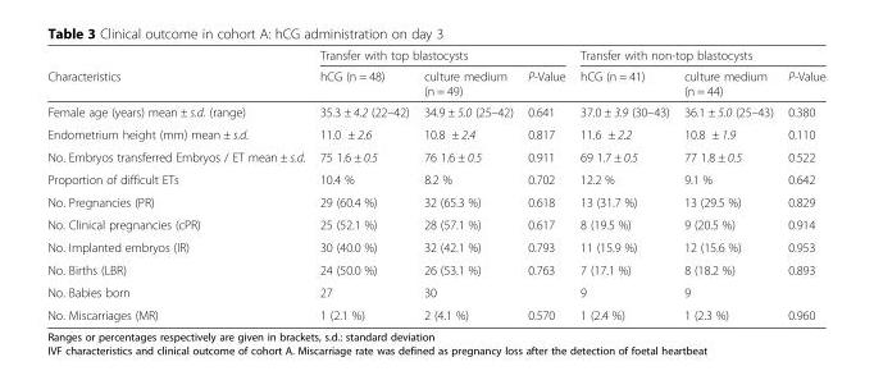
<table><thead><tr><td rowspan="2">Characteristics</td><td colspan="3">Transfer with top blastocysts</td><td colspan="3">Transfer with non-top blastocysts</td></tr><tr><td>hCG (n = 48)</td><td>culture medium (n = 49)</td><td>P-Value</td><td>hCG (n = 41)</td><td>culture medium (n = 44)</td><td>P-Value</td></tr></thead><tbody><tr><td>Female age (years) mean ± s.d. (range)</td><td>35.3 ± 4.2 (22–42)</td><td>34.9 ± 5.0 (25–42)</td><td>0.641</td><td>37.0 ± 3.9 (30–43)</td><td>36.1 ± 5.0 (25–43)</td><td>0.380</td></tr><tr><td>Endometrium height (mm) mean ± s.d.</td><td>11.0 ± 2.6</td><td>10.8 ± 2.4</td><td>0.817</td><td>11.6 ± 2.2</td><td>10.8 ± 1.9</td><td>0.110</td></tr><tr><td>No. Embryos transferred Embryos / ET mean ± s.d.</td><td>75 1.6 ± 0.5</td><td>76 1.6 ± 0.5</td><td>0.911</td><td>69 1.7 ± 0.5</td><td>77 1.8 ± 0.5</td><td>0.522</td></tr><tr><td>Proportion of difficult ETs</td><td>10.4 %</td><td>8.2 %</td><td>0.702</td><td>12.2 %</td><td>9.1 %</td><td>0.642</td></tr><tr><td>No. Pregnancies (PR)</td><td>29 (60.4 %)</td><td>32 (65.3 %)</td><td>0.618</td><td>13 (31.7 %)</td><td>13 (29.5 %)</td><td>0.829</td></tr><tr><td>No. Clinical pregnancies (cPR)</td><td>25 (52.1 %)</td><td>28 (57.1 %)</td><td>0.617</td><td>8 (19.5 %)</td><td>9 (20.5 %)</td><td>0.914</td></tr><tr><td>No. Implanted embryos (IR)</td><td>30 (40.0 %)</td><td>32 (42.1 %)</td><td>0.793</td><td>11 (15.9 %)</td><td>12 (15.6 %)</td><td>0.953</td></tr><tr><td>No. Births (LBR)</td><td>24 (50.0 %)</td><td>26 (53.1 %)</td><td>0.763</td><td>7 (17.1 %)</td><td>8 (18.2 %)</td><td>0.893</td></tr><tr><td>No. Babies born</td><td>27</td><td>30</td><td></td><td>9</td><td>9</td><td></td></tr><tr><td>No. Miscarriages (MR)</td><td>1 (2.1 %)</td><td>2 (4.1 %)</td><td>0.570</td><td>1 (2.4 %)</td><td>1 (2.3 %)</td><td>0.960</td></tr></tbody></table>